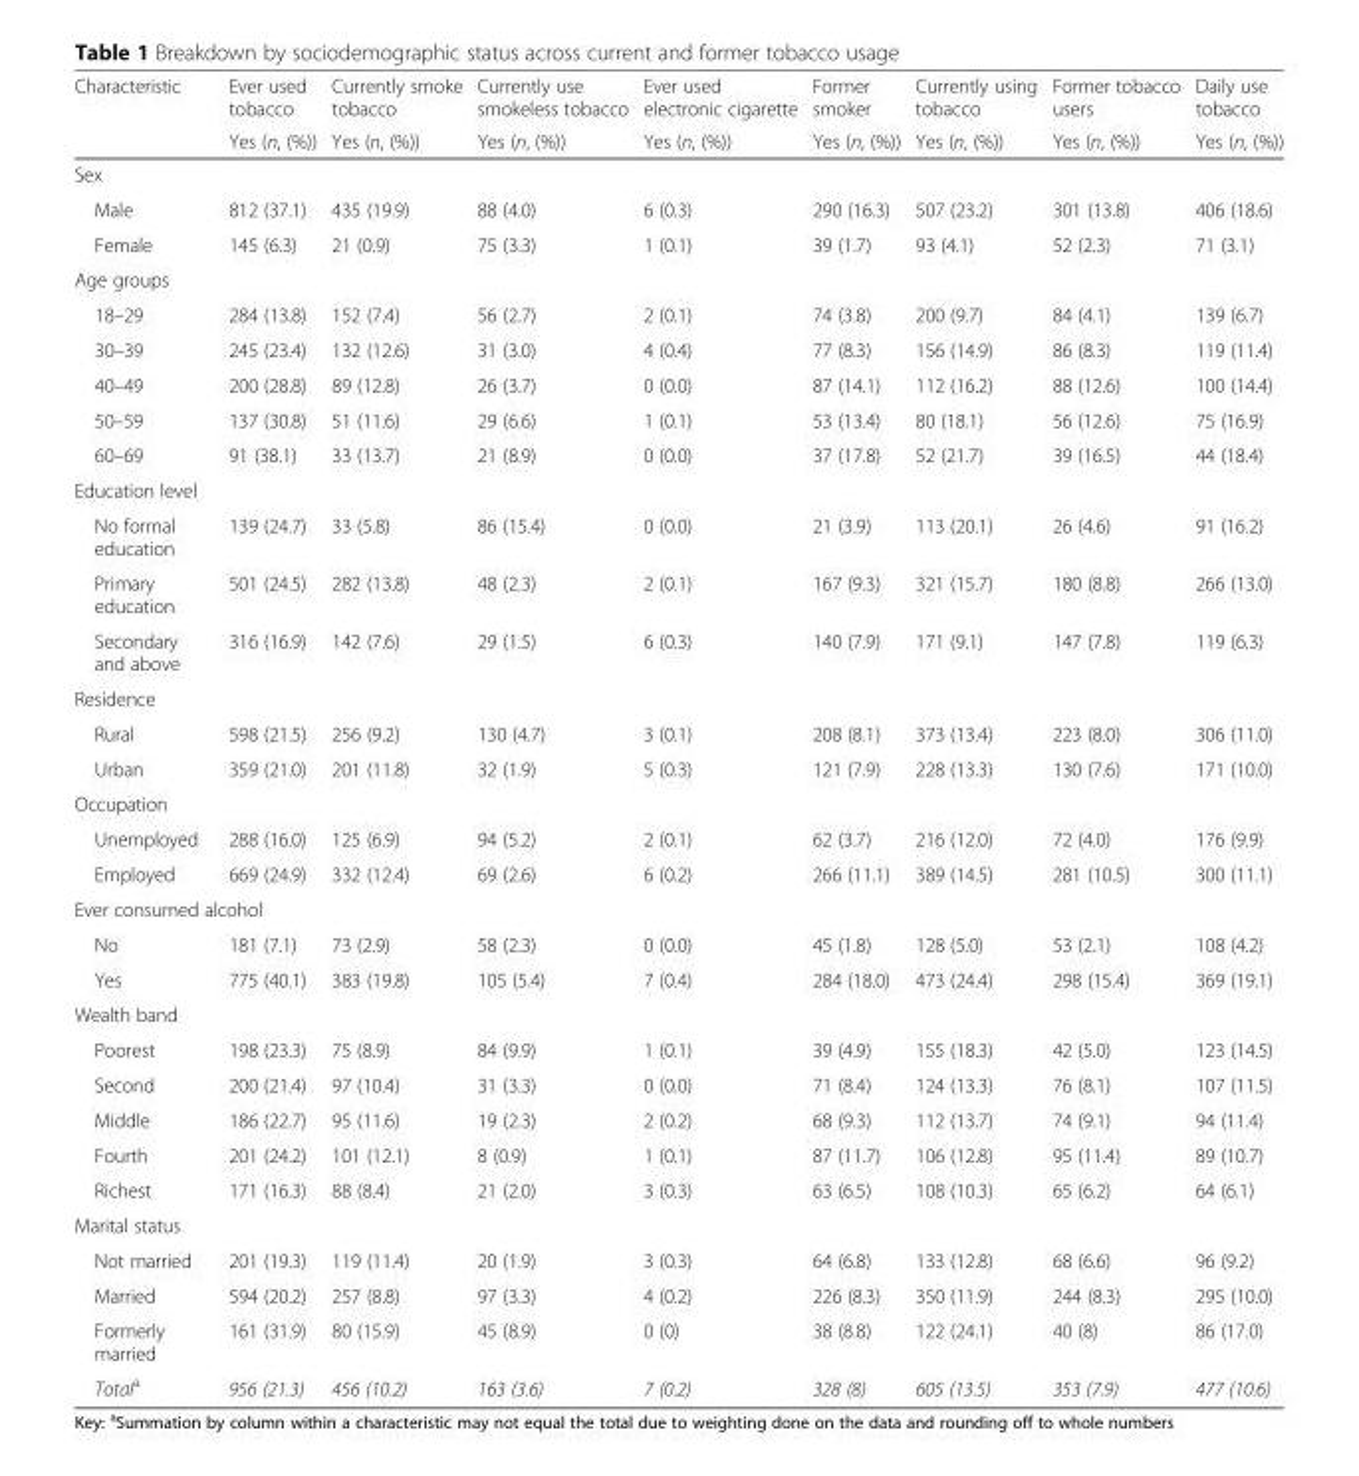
<table><thead><tr><td rowspan="2">Characteristic</td><td rowspan="2">Ever used tobacco Yes (n, (%))</td><td rowspan="2">Currently smoke tobacco Yes (n, (%))</td><td rowspan="2">Currently use smokeless tobacco Yes (n, (%))</td><td rowspan="2">Ever used electronic cigarette Yes (n, (%))</td><td rowspan="2">Former smoker Yes (n, (%))</td><td rowspan="2">Currently using tobacco Yes (n, (%))</td><td rowspan="2">Former tobacco users Yes (n, (%))</td><td rowspan="2">Daily use tobacco Yes (n, (%))</td></tr><tr></tr></thead><tbody><tr><td colspan="9">Sex</td></tr><tr><td>Male</td><td>812 (37.1)</td><td>435 (19.9)</td><td>88 (4.0)</td><td>6 (0.3)</td><td>290 (16.3)</td><td>507 (23.2)</td><td>301 (13.8)</td><td>406 (18.6)</td></tr><tr><td>Female</td><td>145 (6.3)</td><td>21 (0.9)</td><td>75 (3.3)</td><td>1 (0.1)</td><td>39 (1.7)</td><td>93 (4.1)</td><td>52 (2.3)</td><td>71 (3.1)</td></tr><tr><td colspan="9">Age groups</td></tr><tr><td>18–29</td><td>284 (13.8)</td><td>152 (7.4)</td><td>56 (2.7)</td><td>2 (0.1)</td><td>74 (3.8)</td><td>200 (9.7)</td><td>84 (4.1)</td><td>139 (6.7)</td></tr><tr><td>30–39</td><td>245 (23.4)</td><td>132 (12.6)</td><td>31 (3.0)</td><td>4 (0.4)</td><td>77 (8.3)</td><td>156 (14.9)</td><td>86 (8.3)</td><td>119 (11.4)</td></tr><tr><td>40–49</td><td>200 (28.8)</td><td>89 (12.8)</td><td>26 (3.7)</td><td>0 (0.0)</td><td>87 (14.1)</td><td>112 (16.2)</td><td>88 (12.6)</td><td>100 (14.4)</td></tr><tr><td>50–59</td><td>137 (30.8)</td><td>51 (11.6)</td><td>29 (6.6)</td><td>1 (0.1)</td><td>53 (13.4)</td><td>80 (18.1)</td><td>56 (12.6)</td><td>75 (16.9)</td></tr><tr><td>60–69</td><td>91 (38.1)</td><td>33 (13.7)</td><td>21 (8.9)</td><td>0 (0.0)</td><td>37 (17.8)</td><td>52 (21.7)</td><td>39 (16.5)</td><td>44 (18.4)</td></tr><tr><td colspan="9">Education level</td></tr><tr><td>No formal education</td><td>139 (24.7)</td><td>33 (5.8)</td><td>86 (15.4)</td><td>0 (0.0)</td><td>21 (3.9)</td><td>113 (20.1)</td><td>26 (4.6)</td><td>91 (16.2)</td></tr><tr><td>Primary education</td><td>501 (24.5)</td><td>282 (13.8)</td><td>48 (2.3)</td><td>2 (0.1)</td><td>167 (9.3)</td><td>321 (15.7)</td><td>180 (8.8)</td><td>266 (13.0)</td></tr><tr><td>Secondary and above</td><td>316 (16.9)</td><td>142 (7.6)</td><td>29 (1.5)</td><td>6 (0.3)</td><td>140 (7.9)</td><td>171 (9.1)</td><td>147 (7.8)</td><td>119 (6.3)</td></tr><tr><td colspan="9">Residence</td></tr><tr><td>Rural</td><td>598 (21.5)</td><td>256 (9.2)</td><td>130 (4.7)</td><td>3 (0.1)</td><td>208 (8.1)</td><td>373 (13.4)</td><td>223 (8.0)</td><td>306 (11.0)</td></tr><tr><td>Urban</td><td>359 (21.0)</td><td>201 (11.8)</td><td>32 (1.9)</td><td>5 (0.3)</td><td>121 (7.9)</td><td>228 (13.3)</td><td>130 (7.6)</td><td>171 (10.0)</td></tr><tr><td colspan="9">Occupation</td></tr><tr><td>Unemployed</td><td>288 (16.0)</td><td>125 (6.9)</td><td>94 (5.2)</td><td>2 (0.1)</td><td>62 (3.7)</td><td>216 (12.0)</td><td>72 (4.0)</td><td>176 (9.9)</td></tr><tr><td>Employed</td><td>669 (24.9)</td><td>332 (12.4)</td><td>69 (2.6)</td><td>6 (0.2)</td><td>266 (11.1)</td><td>389 (14.5)</td><td>281 (10.5)</td><td>300 (11.1)</td></tr><tr><td colspan="9">Ever consumed alcohol</td></tr><tr><td>No</td><td>181 (7.1)</td><td>73 (2.9)</td><td>58 (2.3)</td><td>0 (0.0)</td><td>45 (1.8)</td><td>128 (5.0)</td><td>53 (2.1)</td><td>108 (4.2)</td></tr><tr><td>Yes</td><td>775 (40.1)</td><td>383 (19.8)</td><td>105 (5.4)</td><td>7 (0.4)</td><td>284 (18.0)</td><td>473 (24.4)</td><td>298 (15.4)</td><td>369 (19.1)</td></tr><tr><td colspan="9">Wealth band</td></tr><tr><td>Poorest</td><td>198 (23.3)</td><td>75 (8.9)</td><td>84 (9.9)</td><td>1 (0.1)</td><td>39 (4.9)</td><td>155 (18.3)</td><td>42 (5.0)</td><td>123 (14.5)</td></tr><tr><td>Second</td><td>200 (21.4)</td><td>97 (10.4)</td><td>31 (3.3)</td><td>0 (0.0)</td><td>71 (8.4)</td><td>124 (13.3)</td><td>76 (8.1)</td><td>107 (11.5)</td></tr><tr><td>Middle</td><td>186 (22.7)</td><td>95 (11.6)</td><td>19 (2.3)</td><td>2 (0.2)</td><td>68 (9.3)</td><td>112 (13.7)</td><td>74 (9.1)</td><td>94 (11.4)</td></tr><tr><td>Fourth</td><td>201 (24.2)</td><td>101 (12.1)</td><td>8 (0.9)</td><td>1 (0.1)</td><td>87 (11.7)</td><td>106 (12.8)</td><td>95 (11.4)</td><td>89 (10.7)</td></tr><tr><td>Richest</td><td>171 (16.3)</td><td>88 (8.4)</td><td>21 (2.0)</td><td>3 (0.3)</td><td>63 (6.5)</td><td>108 (10.3)</td><td>65 (6.2)</td><td>64 (6.1)</td></tr><tr><td colspan="9">Marital status</td></tr><tr><td>Not married</td><td>201 (19.3)</td><td>119 (11.4)</td><td>20 (1.9)</td><td>3 (0.3)</td><td>64 (6.8)</td><td>133 (12.8)</td><td>68 (6.6)</td><td>96 (9.2)</td></tr><tr><td>Married</td><td>594 (20.2)</td><td>257 (8.8)</td><td>97 (3.3)</td><td>4 (0.2)</td><td>226 (8.3)</td><td>350 (11.9)</td><td>244 (8.3)</td><td>295 (10.0)</td></tr><tr><td>Formerly married</td><td>161 (31.9)</td><td>80 (15.9)</td><td>45 (8.9)</td><td>0 (0)</td><td>38 (8.8)</td><td>122 (24.1)</td><td>40 (8)</td><td>86 (17.0)</td></tr><tr><td>Total<sup>a</sup></td><td>956 (21.3)</td><td>456 (10.2)</td><td>163 (3.6)</td><td>7 (0.2)</td><td>328 (8)</td><td>605 (13.5)</td><td>353 (7.9)</td><td>477 (10.6)</td></tr></tbody></table>